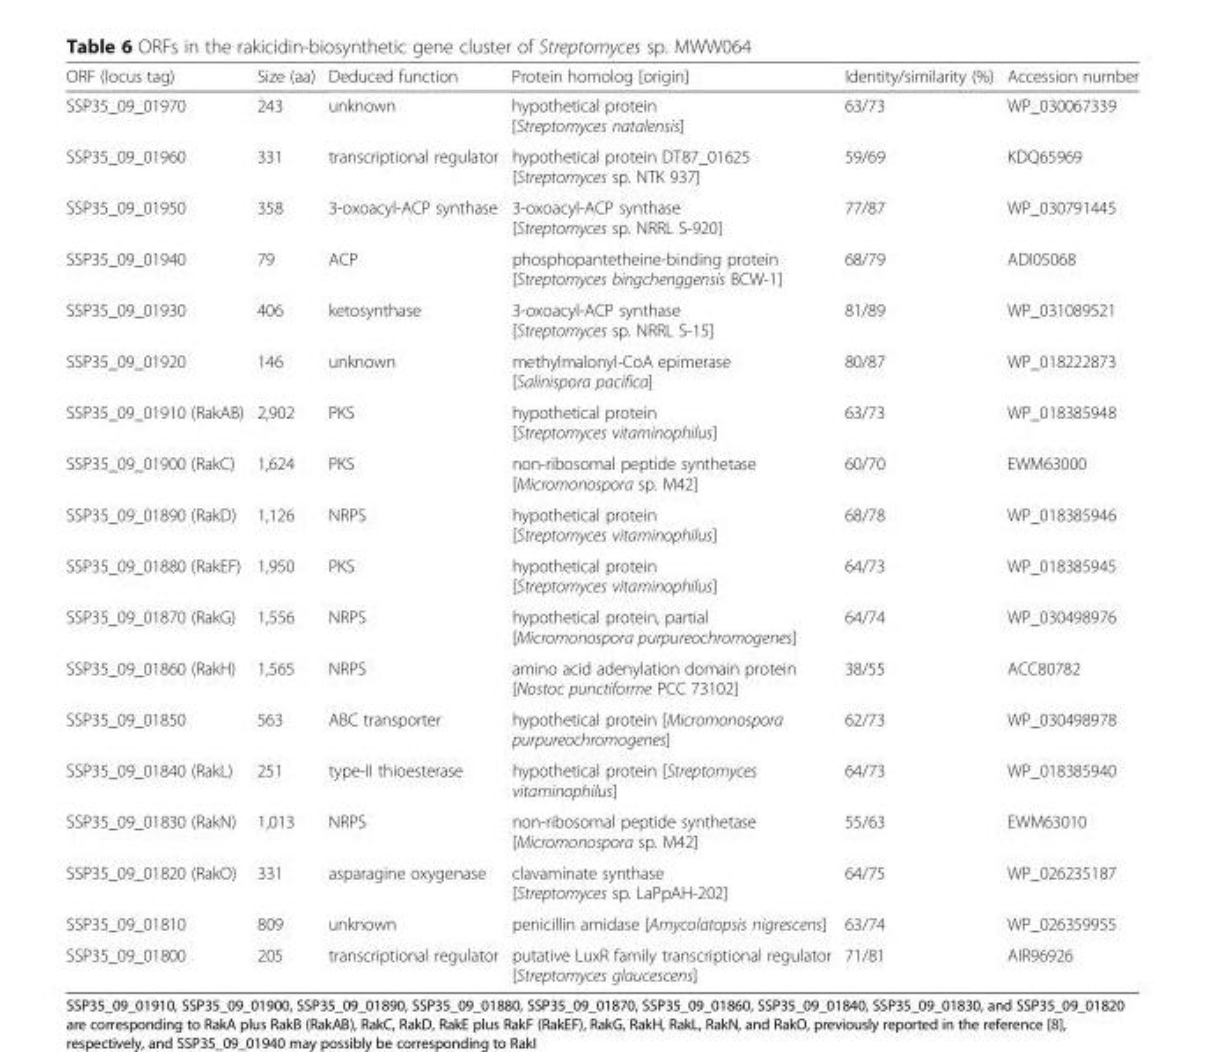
<table><thead><tr><td>ORF (locus tag)</td><td>Size (aa)</td><td>Deduced function</td><td>Protein homolog [origin]</td><td>Identity/similarity (%)</td><td>Accession number</td></tr></thead><tbody><tr><td>SSP35_09_01970</td><td>243</td><td>unknown</td><td>hypothetical protein [Streptomyces natalensis]</td><td>63/73</td><td>WP_030067339</td></tr><tr><td>SSP35_09_01960</td><td>331</td><td>transcriptional regulator</td><td>hypothetical protein DT87_01625 [Streptomyces sp. NTK 937]</td><td>59/69</td><td>KDQ65969</td></tr><tr><td>SSP35_09_01950</td><td>358</td><td>3-oxoacyl-ACP synthase</td><td>3-oxoacyl-ACP synthase [Streptomyces sp. NRRL S-920]</td><td>77/87</td><td>WP_030791445</td></tr><tr><td>SSP35_09_01940</td><td>79</td><td>ACP</td><td>phosphopantetheine-binding protein [Streptomyces bingchenggensis BCW-1]</td><td>68/79</td><td>ADI05068</td></tr><tr><td>SSP35_09_01930</td><td>406</td><td>ketosynthase</td><td>3-oxoacyl-ACP synthase [Streptomyces sp. NRRL S-15]</td><td>81/89</td><td>WP_031089521</td></tr><tr><td>SSP35_09_01920</td><td>146</td><td>unknown</td><td>methylmalonyl-CoA epimerase [Salinispora pacifica]</td><td>80/87</td><td>WP_018222873</td></tr><tr><td>SSP35_09_01910 (RakAB)</td><td>2,902</td><td>PKS</td><td>hypothetical protein [Streptomyces vitaminophilus]</td><td>63/73</td><td>WP_018385948</td></tr><tr><td>SSP35_09_01900 (RakC)</td><td>1,624</td><td>PKS</td><td>non-ribosomal peptide synthetase [Micromonospora sp. M42]</td><td>60/70</td><td>EWM63000</td></tr><tr><td>SSP35_09_01890 (RakD)</td><td>1,126</td><td>NRPS</td><td>hypothetical protein [Streptomyces vitaminophilus]</td><td>68/78</td><td>WP_018385946</td></tr><tr><td>SSP35_09_01880 (RakEF)</td><td>1,950</td><td>PKS</td><td>hypothetical protein [Streptomyces vitaminophilus]</td><td>64/73</td><td>WP_018385945</td></tr><tr><td>SSP35_09_01870 (RakG)</td><td>1,556</td><td>NRPS</td><td>hypothetical protein, partial [Micromonospora purpureochromogenes]</td><td>64/74</td><td>WP_030498976</td></tr><tr><td>SSP35_09_01860 (RakH)</td><td>1,565</td><td>NRPS</td><td>amino acid adenylation domain protein [Nostoc punctiforme PCC 73102]</td><td>38/55</td><td>ACC80782</td></tr><tr><td>SSP35_09_01850</td><td>563</td><td>ABC transporter</td><td>hypothetical protein [Micromonospora purpureochromogenes]</td><td>62/73</td><td>WP_030498978</td></tr><tr><td>SSP35_09_01840 (RakL)</td><td>251</td><td>type-II thioesterase</td><td>hypothetical protein [Streptomyces vitaminophilus]</td><td>64/73</td><td>WP_018385940</td></tr><tr><td>SSP35_09_01830 (RakN)</td><td>1,013</td><td>NRPS</td><td>non-ribosomal peptide synthetase [Micromonospora sp. M42]</td><td>55/63</td><td>EWM63010</td></tr><tr><td>SSP35_09_01820 (RakO)</td><td>331</td><td>asparagine oxygenase</td><td>clavaminate synthase [Streptomyces sp. LaPpAH-202]</td><td>64/75</td><td>WP_026235187</td></tr><tr><td>SSP35_09_01810</td><td>809</td><td>unknown</td><td>penicillin amidase [Amycolatopsis nigrescens]</td><td>63/74</td><td>WP_026359955</td></tr><tr><td>SSP35_09_01800</td><td>205</td><td>transcriptional regulator</td><td>putative LuxR family transcriptional regulator [Streptomyces glaucescens]</td><td>71/81</td><td>AIR96926</td></tr></tbody></table>